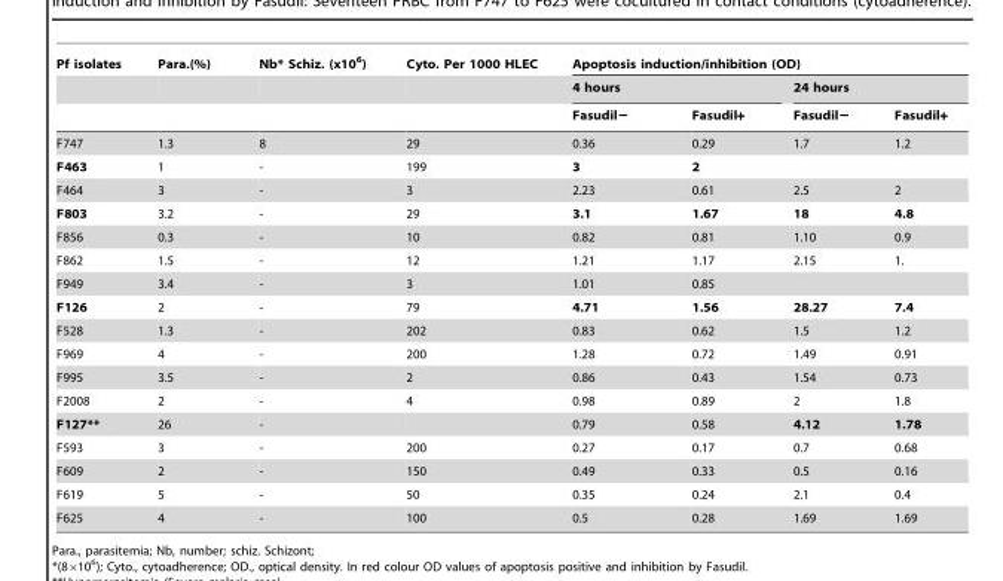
<table><thead><tr><td rowspan="3">Pf isolates</td><td rowspan="3">Para.(%)</td><td rowspan="3">Nb* Schiz. (x10<sup>6</sup>)</td><td rowspan="3">Cyto. Per 1000 HLEC</td><td colspan="4">Apoptosis induction/inhibition (OD)</td></tr><tr><td colspan="2">4 hours</td><td colspan="2">24 hours</td></tr><tr><td>Fasudil−</td><td>Fasudil+</td><td>Fasudil−</td><td>Fasudil+</td></tr></thead><tbody><tr><td>F747</td><td>1.3</td><td>8</td><td>29</td><td>0.36</td><td>0.29</td><td>1.7</td><td>1.2</td></tr><tr><td>F463</td><td>1</td><td>-</td><td>199</td><td>3</td><td>2</td><td></td><td></td></tr><tr><td>F464</td><td>3</td><td>-</td><td>3</td><td>2.23</td><td>0.61</td><td>2.5</td><td>2</td></tr><tr><td>F803</td><td>3.2</td><td>-</td><td>29</td><td>3.1</td><td>1.67</td><td>18</td><td>4.8</td></tr><tr><td>F856</td><td>0.3</td><td>-</td><td>10</td><td>0.82</td><td>0.81</td><td>1.10</td><td>0.9</td></tr><tr><td>F862</td><td>1.5</td><td>-</td><td>12</td><td>1.21</td><td>1.17</td><td>2.15</td><td>1.</td></tr><tr><td>F949</td><td>3.4</td><td>-</td><td>3</td><td>1.01</td><td>0.85</td><td></td><td></td></tr><tr><td>F126</td><td>2</td><td>-</td><td>79</td><td>4.71</td><td>1.56</td><td>28.27</td><td>7.4</td></tr><tr><td>F528</td><td>1.3</td><td>-</td><td>202</td><td>0.83</td><td>0.62</td><td>1.5</td><td>1.2</td></tr><tr><td>F969</td><td>4</td><td>-</td><td>200</td><td>1.28</td><td>0.72</td><td>1.49</td><td>0.91</td></tr><tr><td>F995</td><td>3.5</td><td>-</td><td>2</td><td>0.86</td><td>0.43</td><td>1.54</td><td>0.73</td></tr><tr><td>F2008</td><td>2</td><td>-</td><td>4</td><td>0.98</td><td>0.89</td><td>2</td><td>1.8</td></tr><tr><td>F127**</td><td>26</td><td>-</td><td></td><td>0.79</td><td>0.58</td><td>4.12</td><td>1.78</td></tr><tr><td>F593</td><td>3</td><td>-</td><td>200</td><td>0.27</td><td>0.17</td><td>0.7</td><td>0.68</td></tr><tr><td>F609</td><td>2</td><td>-</td><td>150</td><td>0.49</td><td>0.33</td><td>0.5</td><td>0.16</td></tr><tr><td>F619</td><td>5</td><td>-</td><td>50</td><td>0.35</td><td>0.24</td><td>2.1</td><td>0.4</td></tr><tr><td>F625</td><td>4</td><td>-</td><td>100</td><td>0.5</td><td>0.28</td><td>1.69</td><td>1.69</td></tr></tbody></table>